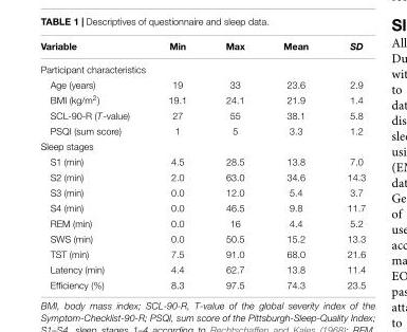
<table><thead><tr><td>Variable</td><td>Min</td><td>Max</td><td>Mean</td><td>SD</td></tr></thead><tbody><tr><td colspan="5">Participant characteristics</td></tr><tr><td>Age (years)</td><td>19</td><td>33</td><td>23.6</td><td>2.9</td></tr><tr><td>BMI (kg/m<sup>2</sup>)</td><td>19.1</td><td>24.1</td><td>21.9</td><td>1.4</td></tr><tr><td>SCL-90-R (T-value)</td><td>27</td><td>55</td><td>38.1</td><td>5.8</td></tr><tr><td>PSQI (sum score)</td><td>1</td><td>5</td><td>3.3</td><td>1.2</td></tr><tr><td colspan="5">Sleep stages</td></tr><tr><td>S1 (min)</td><td>4.5</td><td>28.5</td><td>13.8</td><td>7.0</td></tr><tr><td>S2 (min)</td><td>2.0</td><td>63.0</td><td>34.6</td><td>14.3</td></tr><tr><td>S3 (min)</td><td>0.0</td><td>12.0</td><td>5.4</td><td>3.7</td></tr><tr><td>S4 (min)</td><td>0.0</td><td>46.5</td><td>9.8</td><td>11.7</td></tr><tr><td>REM (min)</td><td>0.0</td><td>16</td><td>4.4</td><td>5.2</td></tr><tr><td>SWS (min)</td><td>0.0</td><td>50.5</td><td>15.2</td><td>13.3</td></tr><tr><td>TST (min)</td><td>7.5</td><td>91.0</td><td>68.0</td><td>21.6</td></tr><tr><td>Latency (min)</td><td>4.4</td><td>62.7</td><td>13.8</td><td>11.4</td></tr><tr><td>Efficiency (%)</td><td>8.3</td><td>97.5</td><td>74.3</td><td>23.5</td></tr></tbody></table>